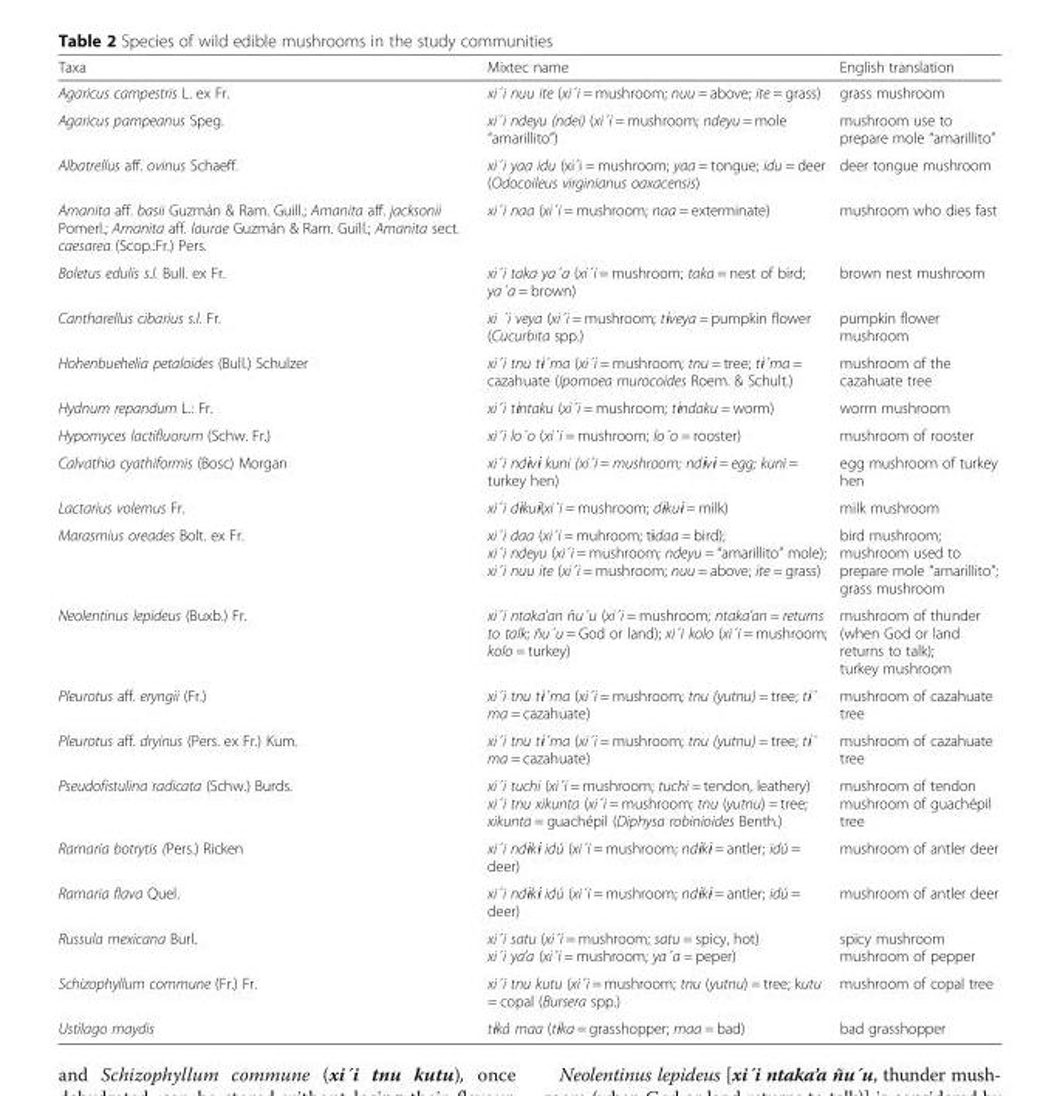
<table><thead><tr><td>Taxa</td><td>Mixtec name</td><td>English translation</td></tr></thead><tbody><tr><td>Agaricus campestris L. ex Fr.</td><td>xi´i nuu ite (xi´i = mushroom; nuu = above; ite = grass)</td><td>grass mushroom</td></tr><tr><td>Agaricus pampeanus Speg.</td><td>xi´i ndeyu (ndei) (xi´i = mushroom; ndeyu = mole “amarillito”)</td><td>mushroom use to prepare mole “amarillito”</td></tr><tr><td>Albatrellus aff. ovinus Schaeff.</td><td>xi´i yaa idu (xi´i = mushroom; yaa = tongue; idu = deer (Odocoileus virginianus oaxacensis)</td><td>deer tongue mushroom</td></tr><tr><td>Amanita aff. basii Guzmán &amp; Ram. Guill.; Amanita aff. jacksonii Pomerl.; Amanita aff. laurae Guzmán &amp; Ram. Guill.; Amanita sect. caesarea (Scop.:Fr.) Pers.</td><td>xi´i naa (xi´i = mushroom; naa = exterminate)</td><td>mushroom who dies fast</td></tr><tr><td>Boletus edulis s.l. Bull. ex Fr.</td><td>xi´i taka ya´a (xi´i = mushroom; taka = nest of bird; ya´a = brown)</td><td>brown nest mushroom</td></tr><tr><td>Cantharellus cibarius s.l. Fr.</td><td>xi ´i veya (xi´i = mushroom; tɨveya = pumpkin flower (Cucurbita spp.)</td><td>pumpkin flower mushroom</td></tr><tr><td>Hohenbuehelia petaloides (Bull.) Schulzer</td><td>xi´i tnu tɨ´ma (xi´i = mushroom; tnu = tree; tɨ´ma = cazahuate (Ipomoea murocoides Roem. &amp; Schult.)</td><td>mushroom of the cazahuate tree</td></tr><tr><td>Hydnum repandum L.: Fr.</td><td>xi´i tɨntaku (xi´i = mushroom; tɨndaku = worm)</td><td>worm mushroom</td></tr><tr><td>Hypomyces lactifluorum (Schw. Fr.)</td><td>xi´i lo´o (xi´i = mushroom; lo´o = rooster)</td><td>mushroom of rooster</td></tr><tr><td>Calvathia cyathiformis (Bosc) Morgan</td><td>xi´i ndɨvɨ kuni (xi´i = mushroom; ndɨvɨ = egg; kuni = turkey hen)</td><td>egg mushroom of turkey hen</td></tr><tr><td>Lactarius volemus Fr.</td><td>xi´i dɨkuɨ(xi´i = mushroom; dɨkuɨ = milk)</td><td>milk mushroom</td></tr><tr><td>Marasmius oreades Bolt. ex Fr.</td><td>xi´i daa (xi´i = muhroom; tɨdaa = bird); xi´i ndeyu (xi´i = mushroom; ndeyu = “amarillito” mole); xi´i nuu ite (xi´i = mushroom; nuu = above; ite = grass)</td><td>bird mushroom; mushroom used to prepare mole “amarillito”; grass mushroom</td></tr><tr><td>Neolentinus lepideus (Buxb.) Fr.</td><td>xi´i ntaka’an ñu´u (xi´i = mushroom; ntaka’an = returns to talk; ñu´u = God or land); xi´i kolo (xi´i = mushroom; kolo = turkey)</td><td>mushroom of thunder (when God or land returns to talk); turkey mushroom</td></tr><tr><td>Pleurotus aff. eryngii (Fr.)</td><td>xi´i tnu tɨ´ma (xi´i = mushroom; tnu (yutnu) = tree; tɨ´ ma = cazahuate)</td><td>mushroom of cazahuate tree</td></tr><tr><td>Pleurotus aff. dryinus (Pers. ex Fr.) Kum.</td><td>xi´i tnu tɨ´ma (xi´i = mushroom; tnu (yutnu) = tree; tɨ´ ma = cazahuate)</td><td>mushroom of cazahuate tree</td></tr><tr><td>Pseudofistulina radicata (Schw.) Burds.</td><td>xi´i tuchi (xi´i = mushroom; tuchi = tendon, leathery) xi´i tnu xikunta (xi´i = mushroom; tnu (yutnu) = tree; xikunta = guachépil (Diphysa robinioides Benth.)</td><td>mushroom of tendon mushroom of guachépil tree</td></tr><tr><td>Ramaria botrytis (Pers.) Ricken</td><td>xi´i ndɨkɨ idú (xi´i = mushroom; ndɨkɨ = antler; idú = deer)</td><td>mushroom of antler deer</td></tr><tr><td>Ramaria flava Quel.</td><td>xi´i ndɨkɨ idú (xi´i = mushroom; ndɨkɨ = antler; idú = deer)</td><td>mushroom of antler deer</td></tr><tr><td>Russula mexicana Burl.</td><td>xi´i satu (xi´i = mushroom; satu = spicy, hot) xi´i ya’a (xi´i = mushroom; ya´a = peper)</td><td>spicy mushroom mushroom of pepper</td></tr><tr><td>Schizophyllum commune (Fr.) Fr.</td><td>xi´i tnu kutu (xi´i = mushroom; tnu (yutnu) = tree; kutu = copal (Bursera spp.)</td><td>mushroom of copal tree</td></tr><tr><td>Ustilago maydis</td><td>tɨká maa (tɨka = grasshopper; maa = bad)</td><td>bad grasshopper</td></tr></tbody></table>